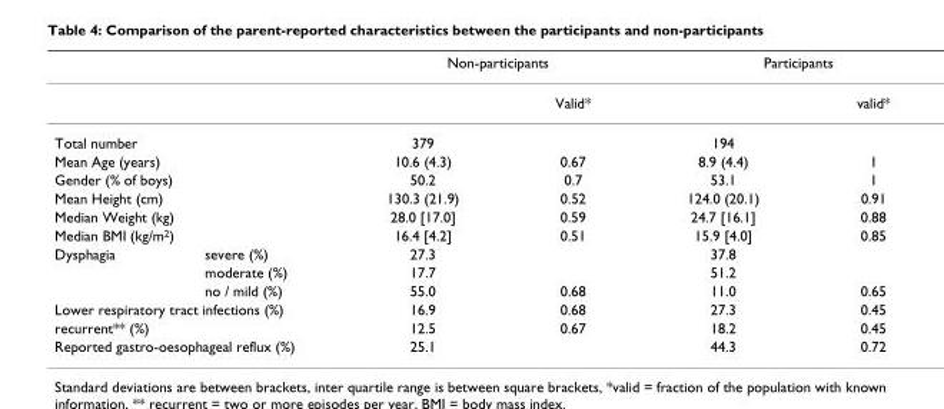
<table><thead><tr><td rowspan="2"></td><td rowspan="2"></td><td colspan="2">Non-participants</td><td colspan="2">Participants</td></tr><tr><td></td><td>Valid*</td><td></td><td>valid*</td></tr></thead><tbody><tr><td colspan="2">Total number</td><td>379</td><td></td><td>194</td><td></td></tr><tr><td colspan="2">Mean Age (years)</td><td>10.6 (4.3)</td><td>0.67</td><td>8.9 (4.4)</td><td>1</td></tr><tr><td colspan="2">Gender (% of boys)</td><td>50.2</td><td>0.7</td><td>53.1</td><td>1</td></tr><tr><td colspan="2">Mean Height (cm)</td><td>130.3 (21.9)</td><td>0.52</td><td>124.0 (20.1)</td><td>0.91</td></tr><tr><td colspan="2">Median Weight (kg)</td><td>28.0 [17.0]</td><td>0.59</td><td>24.7 [16.1]</td><td>0.88</td></tr><tr><td colspan="2">Median BMI (kg/m<sup>2</sup>)</td><td>16.4 [4.2]</td><td>0.51</td><td>15.9 [4.0]</td><td>0.85</td></tr><tr><td rowspan="3">Dysphagia</td><td>severe (%)</td><td>27.3</td><td></td><td>37.8</td><td></td></tr><tr><td>moderate (%)</td><td>17.7</td><td></td><td>51.2</td><td></td></tr><tr><td>no / mild (%)</td><td>55.0</td><td>0.68</td><td>11.0</td><td>0.65</td></tr><tr><td colspan="2">Lower respiratory tract infections (%)</td><td>16.9</td><td>0.68</td><td>27.3</td><td>0.45</td></tr><tr><td colspan="2">recurrent** (%)</td><td>12.5</td><td>0.67</td><td>18.2</td><td>0.45</td></tr><tr><td colspan="2">Reported gastro-oesophageal reflux (%)</td><td>25.1</td><td></td><td>44.3</td><td>0.72</td></tr></tbody></table>